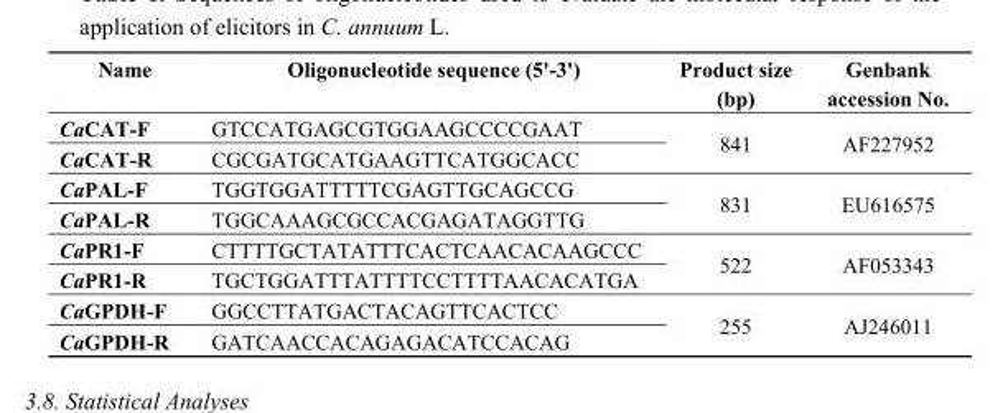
<table><thead><tr><td>Name</td><td>Oligonucleotide sequence (5&#x27;-3&#x27;)</td><td>Product size (bp)</td><td>Genbank accession No.</td></tr></thead><tbody><tr><td>CaCAT-F</td><td>GTCCATGAGCGTGGAAGCCCCGAAT</td><td rowspan="2">841</td><td rowspan="2">AF227952</td></tr><tr><td>CaCAT-R</td><td>CGCGATGCATGAAGTTCATGGCACC</td></tr><tr><td>CaPAL-F</td><td>TGGTGGATTTTTCGAGTTGCAGCCG</td><td rowspan="2">831</td><td rowspan="2">EU616575</td></tr><tr><td>CaPAL-R</td><td>TGGCAAAGCGCCACGAGATAGGTTG</td></tr><tr><td>CaPR1-F</td><td>CTTTTGCTATATTTCACTCAACACAAGCCC</td><td rowspan="2">522</td><td rowspan="2">AF053343</td></tr><tr><td>CaPR1-R</td><td>TGCTGGATTTATTTTCCTTTTAACACATGA</td></tr><tr><td>CaGPDH-F</td><td>GGCCTTATGACTACAGTTCACTCC</td><td rowspan="2">255</td><td rowspan="2">AJ246011</td></tr><tr><td>CaGPDH-R</td><td>GATCAACCACAGAGACATCCACAG</td></tr></tbody></table>